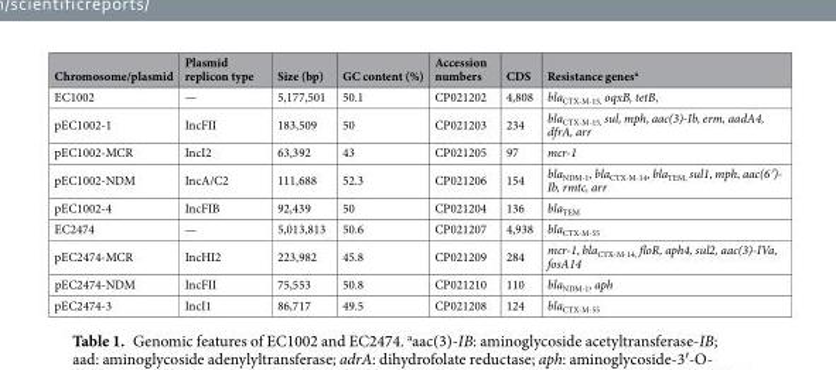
<table><thead><tr><td>Chromosome/plasmid</td><td>Plasmid replicon type</td><td>Size (bp)</td><td>GC content (%)</td><td>Accession numbers</td><td>CDS</td><td>Resistance genes<sup>a</sup></td></tr></thead><tbody><tr><td>EC1002</td><td>—</td><td>5,177,501</td><td>50.1</td><td>CP021202</td><td>4,808</td><td>bla<sub>CTX-M-15,</sub> oqxB, tetB,</td></tr><tr><td>pEC1002-1</td><td>IncFII</td><td>183,509</td><td>50</td><td>CP021203</td><td>234</td><td>bla<sub>CTX-M-15,</sub> sul, mph, aac(3)-Ib, erm, aadA4, dfrA, arr</td></tr><tr><td>pEC1002-MCR</td><td>IncI2</td><td>63,392</td><td>43</td><td>CP021205</td><td>97</td><td>mcr-1</td></tr><tr><td>pEC1002-NDM</td><td>IncA/C2</td><td>111,688</td><td>52.3</td><td>CP021206</td><td>154</td><td>bla<sub>NDM-1</sub>, bla<sub>CTX-M-14</sub>, bla<sub>TEM,</sub> sul1, mph, aac(6′)- Ib, rmtc, arr</td></tr><tr><td>pEC1002-4</td><td>IncFIB</td><td>92,439</td><td>50</td><td>CP021204</td><td>136</td><td>bla<sub>TEM</sub></td></tr><tr><td>EC2474</td><td>—</td><td>5,013,813</td><td>50.6</td><td>CP021207</td><td>4,938</td><td>bla<sub>CTX-M-55</sub></td></tr><tr><td>pEC2474-MCR</td><td>IncHI2</td><td>223,982</td><td>45.8</td><td>CP021209</td><td>284</td><td>mcr-1, bla<sub>CTX-M-14,</sub> floR, aph4, sul2, aac(3)-IVa, fosA14</td></tr><tr><td>pEC2474-NDM</td><td>IncFII</td><td>75,553</td><td>50.8</td><td>CP021210</td><td>110</td><td>bla<sub>NDM-1</sub>, aph</td></tr><tr><td>pEC2474-3</td><td>IncI1</td><td>86,717</td><td>49.5</td><td>CP021208</td><td>124</td><td>bla<sub>CTX-M-55</sub></td></tr></tbody></table>